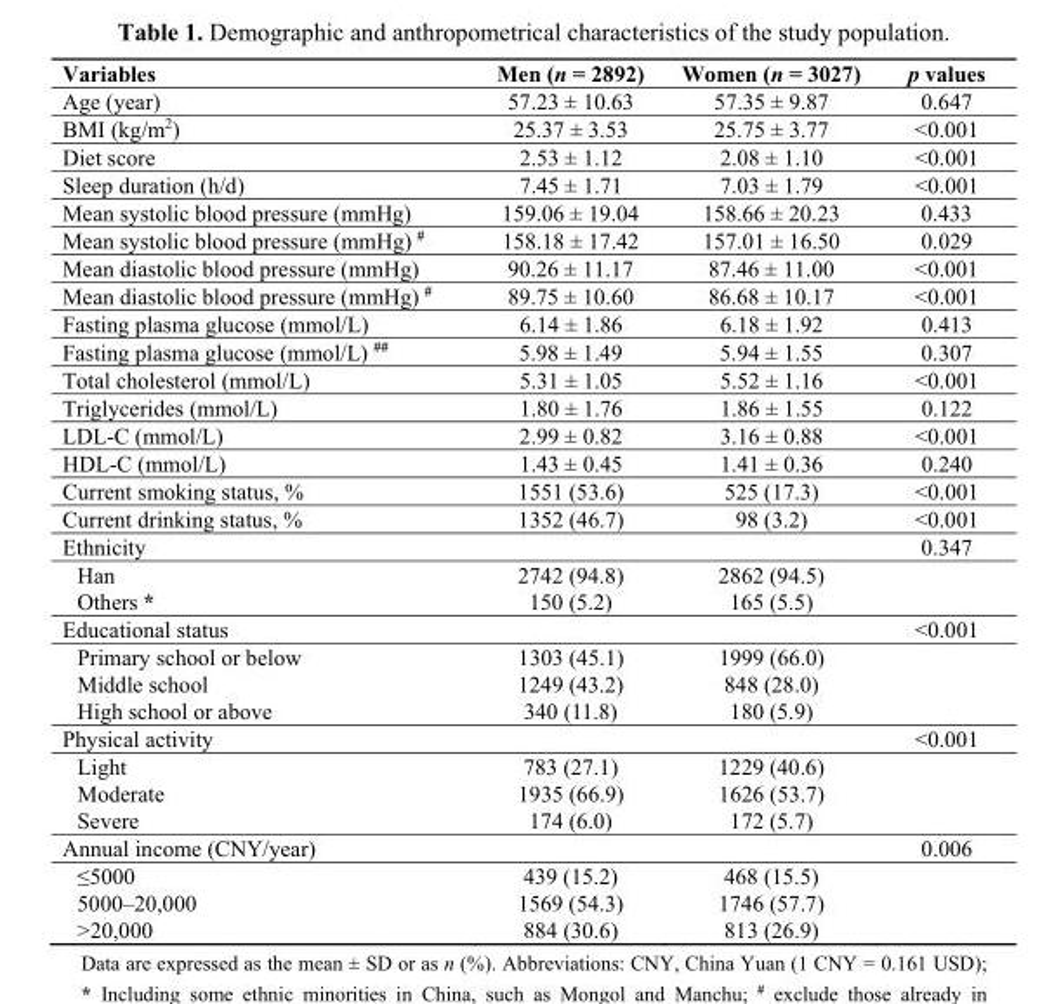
<table><thead><tr><td>Variables</td><td>Men (n = 2892)</td><td>Women (n = 3027)</td><td>p values</td></tr></thead><tbody><tr><td>Age (year)</td><td>57.23 ± 10.63</td><td>57.35 ± 9.87</td><td>0.647</td></tr><tr><td>BMI (kg/m<sup>2</sup>)</td><td>25.37 ± 3.53</td><td>25.75 ± 3.77</td><td>&lt;0.001</td></tr><tr><td>Diet score</td><td>2.53 ± 1.12</td><td>2.08 ± 1.10</td><td>&lt;0.001</td></tr><tr><td>Sleep duration (h/d)</td><td>7.45 ± 1.71</td><td>7.03 ± 1.79</td><td>&lt;0.001</td></tr><tr><td>Mean systolic blood pressure (mmHg)</td><td>159.06 ± 19.04</td><td>158.66 ± 20.23</td><td>0.433</td></tr><tr><td>Mean systolic blood pressure (mmHg) <sup>#</sup></td><td>158.18 ± 17.42</td><td>157.01 ± 16.50</td><td>0.029</td></tr><tr><td>Mean diastolic blood pressure (mmHg)</td><td>90.26 ± 11.17</td><td>87.46 ± 11.00</td><td>&lt;0.001</td></tr><tr><td>Mean diastolic blood pressure (mmHg) <sup>#</sup></td><td>89.75 ± 10.60</td><td>86.68 ± 10.17</td><td>&lt;0.001</td></tr><tr><td>Fasting plasma glucose (mmol/L)</td><td>6.14 ± 1.86</td><td>6.18 ± 1.92</td><td>0.413</td></tr><tr><td>Fasting plasma glucose (mmol/L) <sup>##</sup></td><td>5.98 ± 1.49</td><td>5.94 ± 1.55</td><td>0.307</td></tr><tr><td>Total cholesterol (mmol/L)</td><td>5.31 ± 1.05</td><td>5.52 ± 1.16</td><td>&lt;0.001</td></tr><tr><td>Triglycerides (mmol/L)</td><td>1.80 ± 1.76</td><td>1.86 ± 1.55</td><td>0.122</td></tr><tr><td>LDL-C (mmol/L)</td><td>2.99 ± 0.82</td><td>3.16 ± 0.88</td><td>&lt;0.001</td></tr><tr><td>HDL-C (mmol/L)</td><td>1.43 ± 0.45</td><td>1.41 ± 0.36</td><td>0.240</td></tr><tr><td>Current smoking status, %</td><td>1551 (53.6)</td><td>525 (17.3)</td><td>&lt;0.001</td></tr><tr><td>Current drinking status, %</td><td>1352 (46.7)</td><td>98 (3.2)</td><td>&lt;0.001</td></tr><tr><td>Ethnicity</td><td></td><td></td><td>0.347</td></tr><tr><td>Han</td><td>2742 (94.8)</td><td>2862 (94.5)</td><td></td></tr><tr><td>Others *</td><td>150 (5.2)</td><td>165 (5.5)</td><td></td></tr><tr><td>Educational status</td><td></td><td></td><td>&lt;0.001</td></tr><tr><td>Primary school or below</td><td>1303 (45.1)</td><td>1999 (66.0)</td><td></td></tr><tr><td>Middle school</td><td>1249 (43.2)</td><td>848 (28.0)</td><td></td></tr><tr><td>High school or above</td><td>340 (11.8)</td><td>180 (5.9)</td><td></td></tr><tr><td>Physical activity</td><td></td><td></td><td>&lt;0.001</td></tr><tr><td>Light</td><td>783 (27.1)</td><td>1229 (40.6)</td><td></td></tr><tr><td>Moderate</td><td>1935 (66.9)</td><td>1626 (53.7)</td><td></td></tr><tr><td>Severe</td><td>174 (6.0)</td><td>172 (5.7)</td><td></td></tr><tr><td>Annual income (CNY/year)</td><td></td><td></td><td>0.006</td></tr><tr><td>≤5000</td><td>439 (15.2)</td><td>468 (15.5)</td><td></td></tr><tr><td>5000–20,000</td><td>1569 (54.3)</td><td>1746 (57.7)</td><td></td></tr><tr><td>&gt;20,000</td><td>884 (30.6)</td><td>813 (26.9)</td><td></td></tr></tbody></table>